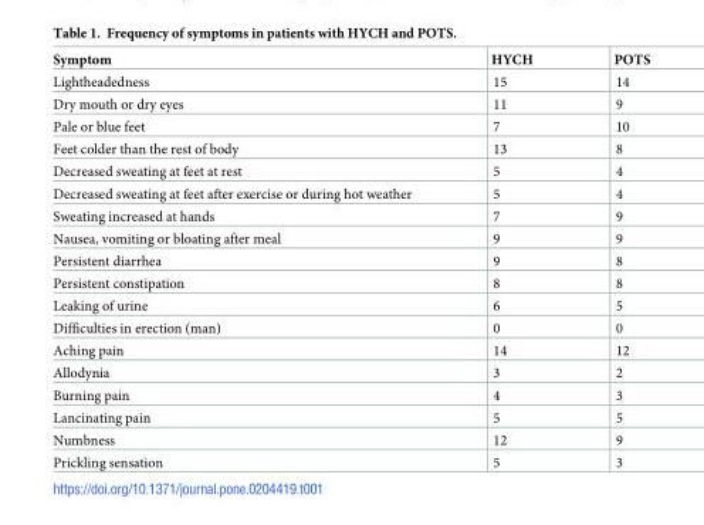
<table><thead><tr><td>Symptom</td><td>HYCH</td><td>POTS</td></tr></thead><tbody><tr><td>Lightheadedness</td><td>15</td><td>14</td></tr><tr><td>Dry mouth or dry eyes</td><td>11</td><td>9</td></tr><tr><td>Pale or blue feet</td><td>7</td><td>10</td></tr><tr><td>Feet colder than the rest of body</td><td>13</td><td>8</td></tr><tr><td>Decreased sweating at feet at rest</td><td>5</td><td>4</td></tr><tr><td>Decreased sweating at feet after exercise or during hot weather</td><td>5</td><td>4</td></tr><tr><td>Sweating increased at hands</td><td>7</td><td>9</td></tr><tr><td>Nausea, vomiting or bloating after meal</td><td>9</td><td>9</td></tr><tr><td>Persistent diarrhea</td><td>9</td><td>8</td></tr><tr><td>Persistent constipation</td><td>8</td><td>8</td></tr><tr><td>Leaking of urine</td><td>6</td><td>5</td></tr><tr><td>Difficulties in erection (man)</td><td>0</td><td>0</td></tr><tr><td>Aching pain</td><td>14</td><td>12</td></tr><tr><td>Allodynia</td><td>3</td><td>2</td></tr><tr><td>Burning pain</td><td>4</td><td>3</td></tr><tr><td>Lancinating pain</td><td>5</td><td>5</td></tr><tr><td>Numbness</td><td>12</td><td>9</td></tr><tr><td>Prickling sensation</td><td>5</td><td>3</td></tr></tbody></table>